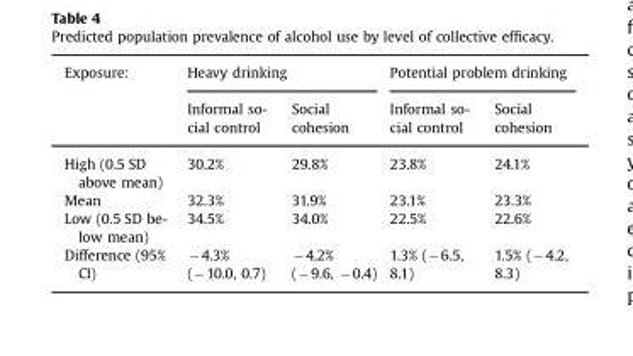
<table><thead><tr><td rowspan="2">Exposure:</td><td colspan="2">Heavy drinking</td><td colspan="2">Potential problem drinking</td></tr><tr><td>Informal so- cial control</td><td>Social cohesion</td><td>Informal so- cial control</td><td>Social cohesion</td></tr></thead><tbody><tr><td>High (0.5 SD above mean)</td><td>30.2%</td><td>29.8%</td><td>23.8%</td><td>24.1%</td></tr><tr><td>Mean</td><td>32.3%</td><td>31.9%</td><td>23.1%</td><td>23.3%</td></tr><tr><td>Low (0.5 SD be- low mean)</td><td>34.5%</td><td>34.0%</td><td>22.5%</td><td>22.6%</td></tr><tr><td>Difference (95% CI)</td><td>−4.3% (−10.0, 0.7)</td><td>−4.2% (−9.6, −0.4)</td><td>1.3% (−6.5, 8.1)</td><td>1.5% (−4.2, 8.3)</td></tr></tbody></table>